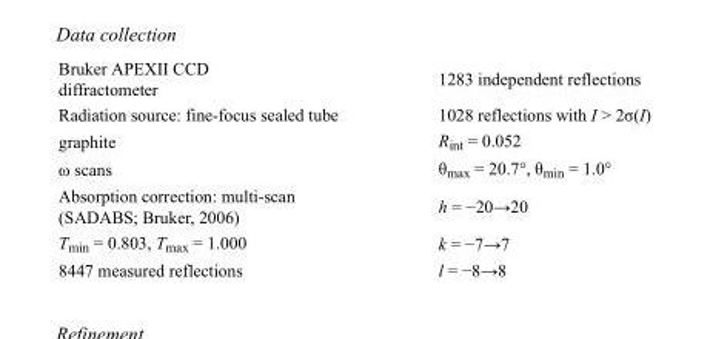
<table><tbody><tr><td>Bruker APEXII CCD diffractometer</td><td>1283 independent reflections</td></tr><tr><td>Radiation source: fine-focus sealed tube</td><td>1028 reflections with I &gt; 2σ(I)</td></tr><tr><td>graphite</td><td>R<sub>int</sub> = 0.052</td></tr><tr><td>ω scans</td><td>θ<sub>max</sub> = 20.7°, θ<sub>min</sub> = 1.0°</td></tr><tr><td>Absorption correction: multi-scan (SADABS; Bruker, 2006)</td><td>h = −20→20</td></tr><tr><td>T<sub>min</sub> = 0.803, T<sub>max</sub> = 1.000</td><td>k = −7→7</td></tr><tr><td>8447 measured reflections</td><td>l = −8→8</td></tr></tbody></table>